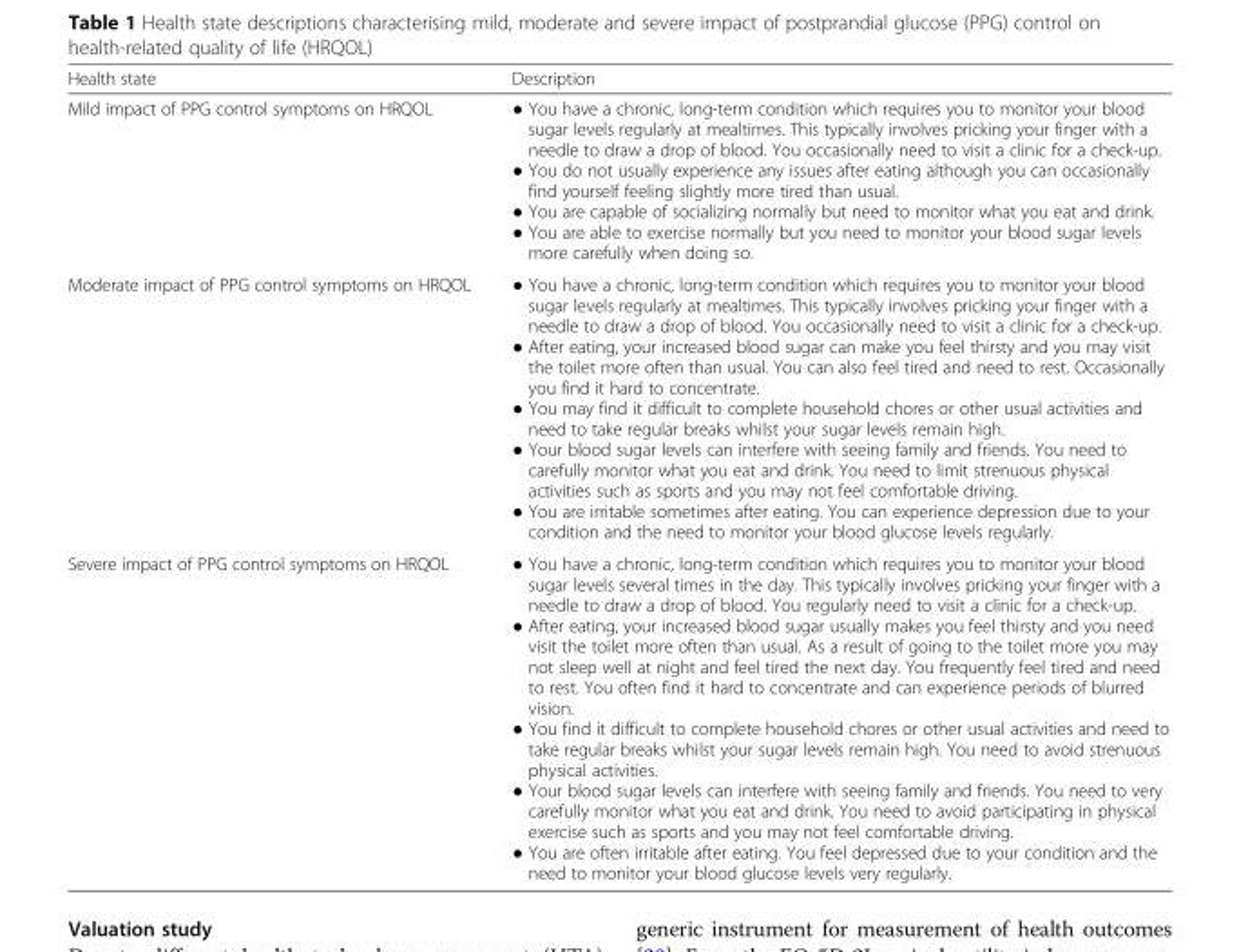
<table><thead><tr><td>Health state</td><td>Description</td></tr></thead><tbody><tr><td>Mild impact of PPG control symptoms on HRQOL</td><td>● You have a chronic, long-term condition which requires you to monitor your blood sugar levels regularly at mealtimes. This typically involves pricking your finger with a needle to draw a drop of blood. You occasionally need to visit a clinic for a check-up. ● You do not usually experience any issues after eating although you can occasionally find yourself feeling slightly more tired than usual. ● You are capable of socializing normally but need to monitor what you eat and drink. ● You are able to exercise normally but you need to monitor your blood sugar levels more carefully when doing so.</td></tr><tr><td>Moderate impact of PPG control symptoms on HRQOL</td><td>● You have a chronic, long-term condition which requires you to monitor your blood sugar levels regularly at mealtimes. This typically involves pricking your finger with a needle to draw a drop of blood. You occasionally need to visit a clinic for a check-up. ● After eating, your increased blood sugar can make you feel thirsty and you may visit the toilet more often than usual. You can also feel tired and need to rest. Occasionally you find it hard to concentrate. ● You may find it difficult to complete household chores or other usual activities and need to take regular breaks whilst your sugar levels remain high. ● Your blood sugar levels can interfere with seeing family and friends. You need to carefully monitor what you eat and drink. You need to limit strenuous physical activities such as sports and you may not feel comfortable driving. ● You are irritable sometimes after eating. You can experience depression due to your condition and the need to monitor your blood glucose levels regularly.</td></tr><tr><td>Severe impact of PPG control symptoms on HRQOL</td><td>● You have a chronic, long-term condition which requires you to monitor your blood sugar levels several times in the day. This typically involves pricking your finger with a needle to draw a drop of blood. You regularly need to visit a clinic for a check-up. ● After eating, your increased blood sugar usually makes you feel thirsty and you need visit the toilet more often than usual. As a result of going to the toilet more you may not sleep well at night and feel tired the next day. You frequently feel tired and need to rest. You often find it hard to concentrate and can experience periods of blurred vision. ● You find it difficult to complete household chores or other usual activities and need to take regular breaks whilst your sugar levels remain high. You need to avoid strenuous physical activities. ● Your blood sugar levels can interfere with seeing family and friends. You need to very carefully monitor what you eat and drink. You need to avoid participating in physical exercise such as sports and you may not feel comfortable driving. ● You are often irritable after eating. You feel depressed due to your condition and the need to monitor your blood glucose levels very regularly.</td></tr></tbody></table>